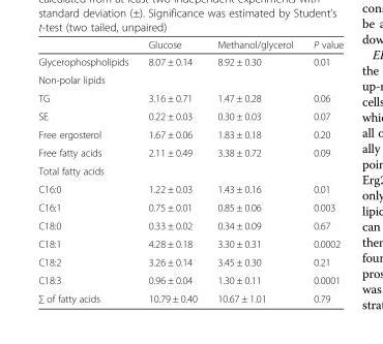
<table><thead><tr><td></td><td>Glucose</td><td>Methanol/glycerol</td><td>P value</td></tr></thead><tbody><tr><td>Glycerophospholipids</td><td>8.07 ± 0.14</td><td>8.92 ± 0.30</td><td>0.01</td></tr><tr><td colspan="4">Non-polar lipids</td></tr><tr><td>TG</td><td>3.16 ± 0.71</td><td>1.47 ± 0.28</td><td>0.06</td></tr><tr><td>SE</td><td>0.22 ± 0.03</td><td>0.30 ± 0.03</td><td>0.07</td></tr><tr><td>Free ergosterol</td><td>1.67 ± 0.06</td><td>1.83 ± 0.18</td><td>0.20</td></tr><tr><td>Free fatty acids</td><td>2.11 ± 0.49</td><td>3.38 ± 0.72</td><td>0.09</td></tr><tr><td colspan="4">Total fatty acids</td></tr><tr><td>C16:0</td><td>1.22 ± 0.03</td><td>1.43 ± 0.16</td><td>0.01</td></tr><tr><td>C16:1</td><td>0.75 ± 0.01</td><td>0.85 ± 0.06</td><td>0.003</td></tr><tr><td>C18:0</td><td>0.33 ± 0.02</td><td>0.34 ± 0.09</td><td>0.67</td></tr><tr><td>C18:1</td><td>4.28 ± 0.18</td><td>3.30 ± 0.31</td><td>0.0002</td></tr><tr><td>C18:2</td><td>3.26 ± 0.14</td><td>3.45 ± 0.30</td><td>0.21</td></tr><tr><td>C18:3</td><td>0.96 ± 0.04</td><td>1.30 ± 0.11</td><td>0.0001</td></tr><tr><td>∑ of fatty acids</td><td>10.79 ± 0.40</td><td>10.67 ± 1.01</td><td>0.79</td></tr></tbody></table>